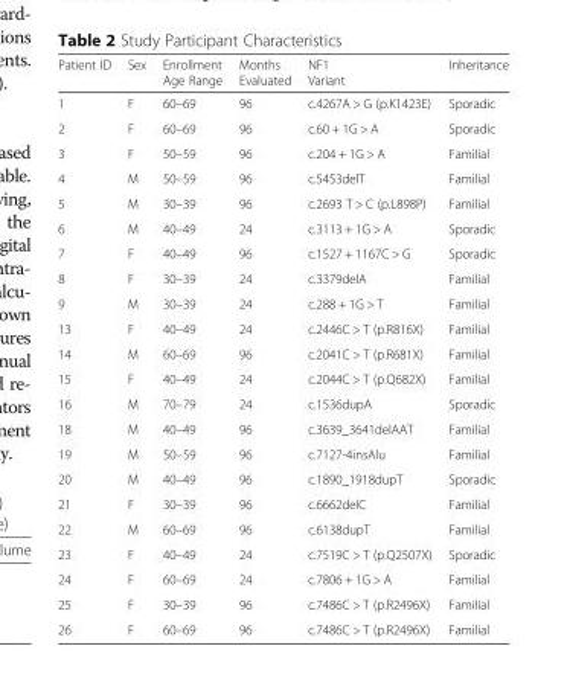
<table><thead><tr><td>Patient ID</td><td>Sex</td><td>Enrollment Age Range</td><td>Months Evaluated</td><td>NF1 Variant</td><td>Inheritance</td></tr></thead><tbody><tr><td>1</td><td>F</td><td>60–69</td><td>96</td><td>c.4267A &gt; G (p.K1423E)</td><td>Sporadic</td></tr><tr><td>2</td><td>F</td><td>60–69</td><td>96</td><td>c.60 + 1G &gt; A</td><td>Sporadic</td></tr><tr><td>3</td><td>F</td><td>50–59</td><td>96</td><td>c.204 + 1G &gt; A</td><td>Familial</td></tr><tr><td>4</td><td>M</td><td>50–59</td><td>96</td><td>c.5453delT</td><td>Familial</td></tr><tr><td>5</td><td>M</td><td>30–39</td><td>96</td><td>c.2693 T &gt; C (p.L898P)</td><td>Familial</td></tr><tr><td>6</td><td>M</td><td>40–49</td><td>24</td><td>c.3113 + 1G &gt; A</td><td>Sporadic</td></tr><tr><td>7</td><td>F</td><td>40–49</td><td>96</td><td>c.1527 + 1167C &gt; G</td><td>Sporadic</td></tr><tr><td>8</td><td>F</td><td>30–39</td><td>24</td><td>c.3379delA</td><td>Familial</td></tr><tr><td>9</td><td>M</td><td>30–39</td><td>24</td><td>c.288 + 1G &gt; T</td><td>Familial</td></tr><tr><td>13</td><td>F</td><td>40–49</td><td>24</td><td>c.2446C &gt; T (p.R816X)</td><td>Familial</td></tr><tr><td>14</td><td>M</td><td>60–69</td><td>96</td><td>c.2041C &gt; T (p.R681X)</td><td>Familial</td></tr><tr><td>15</td><td>F</td><td>40–49</td><td>24</td><td>c.2044C &gt; T (p.Q682X)</td><td>Familial</td></tr><tr><td>16</td><td>M</td><td>70–79</td><td>24</td><td>c.1536dupA</td><td>Sporadic</td></tr><tr><td>18</td><td>M</td><td>40–49</td><td>96</td><td>c.3639_3641delAAT</td><td>Familial</td></tr><tr><td>19</td><td>M</td><td>50–59</td><td>96</td><td>c.7127-4insAlu</td><td>Familial</td></tr><tr><td>20</td><td>M</td><td>40–49</td><td>96</td><td>c.1890_1918dupT</td><td>Sporadic</td></tr><tr><td>21</td><td>F</td><td>30–39</td><td>96</td><td>c.6662delC</td><td>Familial</td></tr><tr><td>22</td><td>M</td><td>60–69</td><td>96</td><td>c.6138dupT</td><td>Familial</td></tr><tr><td>23</td><td>F</td><td>40–49</td><td>24</td><td>c.7519C &gt; T (p.Q2507X)</td><td>Sporadic</td></tr><tr><td>24</td><td>F</td><td>60–69</td><td>24</td><td>c.7806 + 1G &gt; A</td><td>Familial</td></tr><tr><td>25</td><td>F</td><td>30–39</td><td>96</td><td>c.7486C &gt; T (p.R2496X)</td><td>Familial</td></tr><tr><td>26</td><td>F</td><td>60–69</td><td>96</td><td>c.7486C &gt; T (p.R2496X)</td><td>Familial</td></tr></tbody></table>